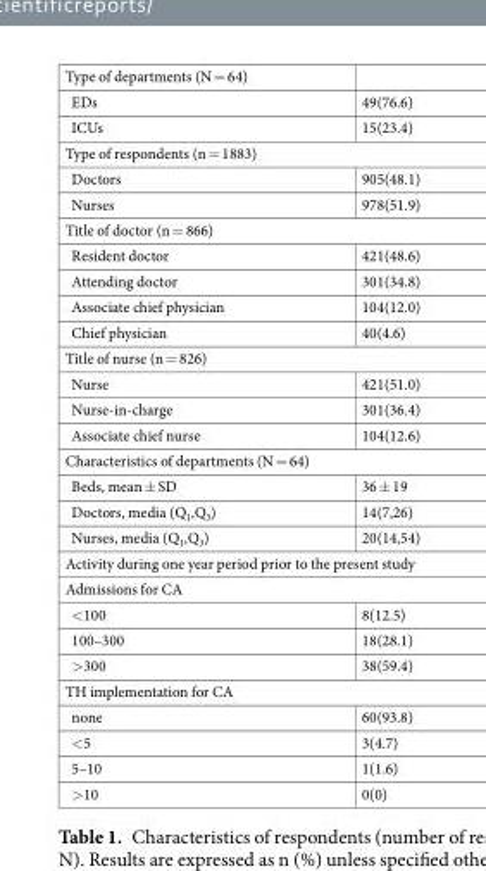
<table><tbody><tr><td colspan="2">Type of departments (N = 64)</td></tr><tr><td>EDs</td><td>49(76.6)</td></tr><tr><td>ICUs</td><td>15(23.4)</td></tr><tr><td colspan="2">Type of respondents (n = 1883)</td></tr><tr><td>Doctors</td><td>905(48.1)</td></tr><tr><td>Nurses</td><td>978(51.9)</td></tr><tr><td colspan="2">Title of doctor (n = 866)</td></tr><tr><td>Resident doctor</td><td>421(48.6)</td></tr><tr><td>Attending doctor</td><td>301(34.8)</td></tr><tr><td>Associate chief physician</td><td>104(12.0)</td></tr><tr><td>Chief physician</td><td>40(4.6)</td></tr><tr><td colspan="2">Title of nurse (n = 826)</td></tr><tr><td>Nurse</td><td>421(51.0)</td></tr><tr><td>Nurse-in-charge</td><td>301(36.4)</td></tr><tr><td>Associate chief nurse</td><td>104(12.6)</td></tr><tr><td colspan="2">Characteristics of departments (N = 64)</td></tr><tr><td>Beds, mean ± SD</td><td>36 ± 19</td></tr><tr><td>Doctors, media (Q<sub>1</sub>,Q<sub>3</sub>)</td><td>14(7,26)</td></tr><tr><td>Nurses, media (Q<sub>1</sub>,Q<sub>3</sub>)</td><td>20(14,54)</td></tr><tr><td colspan="2">Activity during one year period prior to the present study</td></tr><tr><td colspan="2">Admissions for CA</td></tr><tr><td>&lt;100</td><td>8(12.5)</td></tr><tr><td>100–300</td><td>18(28.1)</td></tr><tr><td>&gt;300</td><td>38(59.4)</td></tr><tr><td colspan="2">TH implementation for CA</td></tr><tr><td>none</td><td>60(93.8)</td></tr><tr><td>&lt;5</td><td>3(4.7)</td></tr><tr><td>5–10</td><td>1(1.6)</td></tr><tr><td>&gt;10</td><td>0(0)</td></tr></tbody></table>